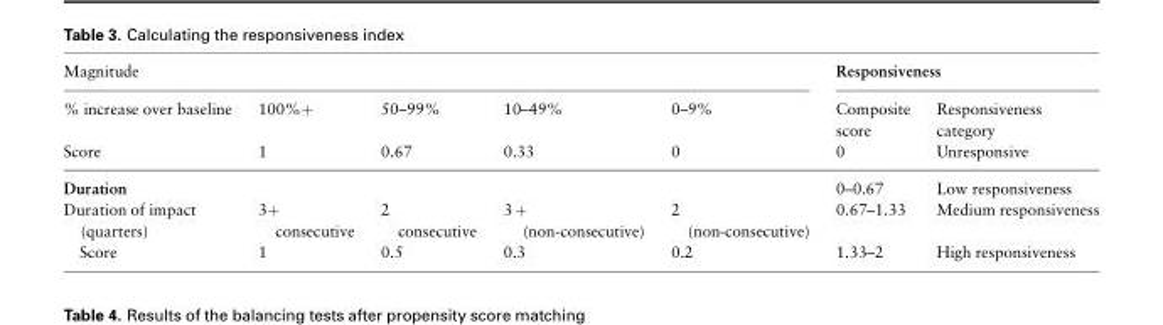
<table><thead><tr><td colspan="5">Magnitude</td><td colspan="2">Responsiveness</td></tr><tr><td rowspan="2">% increase over baseline Score</td><td rowspan="2">100%+ 1</td><td rowspan="2">50–99% 0.67</td><td rowspan="2">10–49% 0.33</td><td rowspan="2">0–9% 0</td><td rowspan="2">Composite score 0</td><td rowspan="2">Responsiveness category Unresponsive</td></tr><tr></tr></thead><tbody><tr><td colspan="5">Duration</td><td>0–0.67</td><td>Low responsiveness</td></tr><tr><td>Duration of impact (quarters)</td><td>3+ consecutive</td><td>2 consecutive</td><td>3 + (non-consecutive)</td><td>2 (non-consecutive)</td><td>0.67–1.33</td><td>Medium responsiveness</td></tr><tr><td>Score</td><td>1</td><td>0.5</td><td>0.3</td><td>0.2</td><td>1.33–2</td><td>High responsiveness</td></tr></tbody></table>